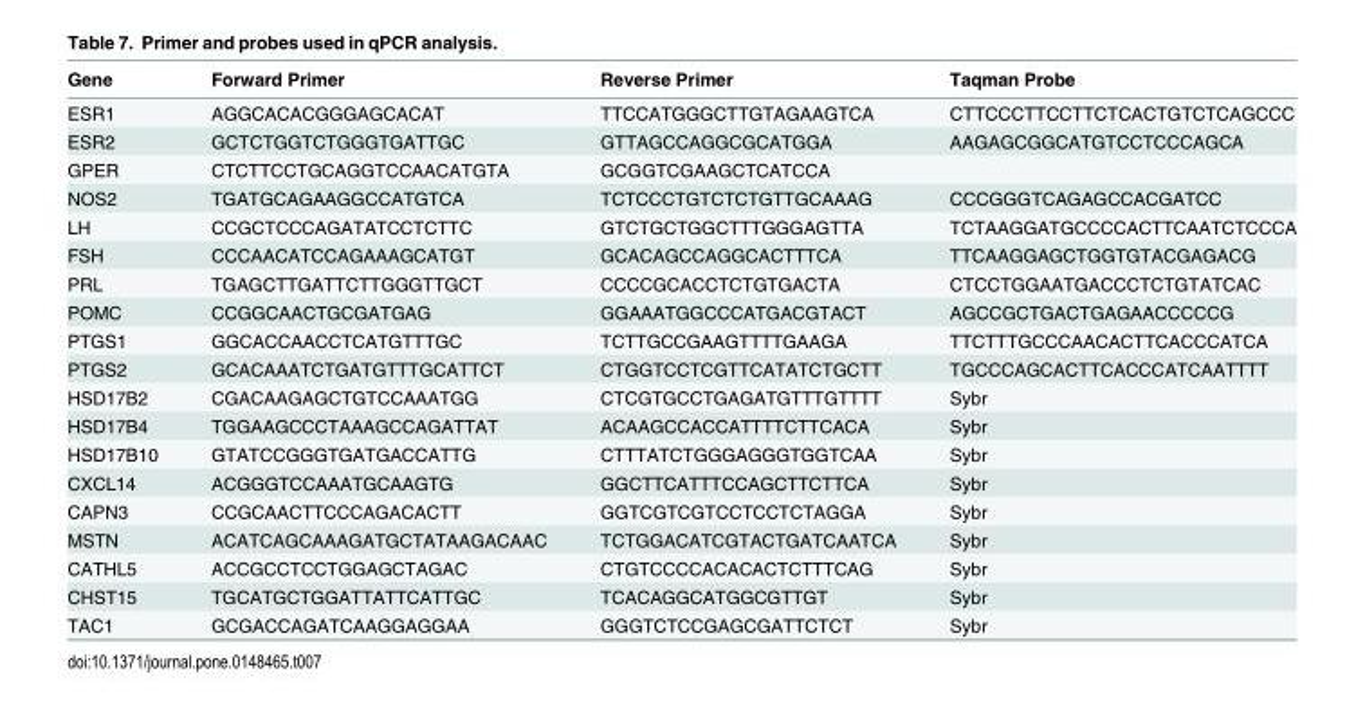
<table><thead><tr><td>Gene</td><td>Forward Primer</td><td>Reverse Primer</td><td>Taqman Probe</td></tr></thead><tbody><tr><td>ESR1</td><td>AGGCACACGGGAGCACAT</td><td>TTCCATGGGCTTGTAGAAGTCA</td><td>CTTCCCTTCCTTCTCACTGTCTCAGCCC</td></tr><tr><td>ESR2</td><td>GCTCTGGTCTGGGTGATTGC</td><td>GTTAGCCAGGCGCATGGA</td><td>AAGAGCGGCATGTCCTCCCAGCA</td></tr><tr><td>GPER</td><td>CTCTTCCTGCAGGTCCAACATGTA</td><td>GCGGTCGAAGCTCATCCA</td><td></td></tr><tr><td>NOS2</td><td>TGATGCAGAAGGCCATGTCA</td><td>TCTCCCTGTCTCTGTTGCAAAG</td><td>CCCGGGTCAGAGCCACGATCC</td></tr><tr><td>LH</td><td>CCGCTCCCAGATATCCTCTTC</td><td>GTCTGCTGGCTTTGGGAGTTA</td><td>TCTAAGGATGCCCCACTTCAATCTCCCA</td></tr><tr><td>FSH</td><td>CCCAACATCCAGAAAGCATGT</td><td>GCACAGCCAGGCACTTTCA</td><td>TTCAAGGAGCTGGTGTACGAGACG</td></tr><tr><td>PRL</td><td>TGAGCTTGATTCTTGGGTTGCT</td><td>CCCCGCACCTCTGTGACTA</td><td>CTCCTGGAATGACCCTCTGTATCAC</td></tr><tr><td>POMC</td><td>CCGGCAACTGCGATGAG</td><td>GGAAATGGCCCATGACGTACT</td><td>AGCCGCTGACTGAGAACCCCCG</td></tr><tr><td>PTGS1</td><td>GGCACCAACCTCATGTTTGC</td><td>TCTTGCCGAAGTTTTGAAGA</td><td>TTCTTTGCCCAACACTTCACCCATCA</td></tr><tr><td>PTGS2</td><td>GCACAAATCTGATGTTTGCATTCT</td><td>CTGGTCCTCGTTCATATCTGCTT</td><td>TGCCCAGCACTTCACCCATCAATTTT</td></tr><tr><td>HSD17B2</td><td>CGACAAGAGCTGTCCAAATGG</td><td>CTCGTGCCTGAGATGTTTGTTTT</td><td>Sybr</td></tr><tr><td>HSD17B4</td><td>TGGAAGCCCTAAAGCCAGATTAT</td><td>ACAAGCCACCATTTTCTTCACA</td><td>Sybr</td></tr><tr><td>HSD17B10</td><td>GTATCCGGGTGATGACCATTG</td><td>CTTTATCTGGGAGGGTGGTCAA</td><td>Sybr</td></tr><tr><td>CXCL14</td><td>ACGGGTCCAAATGCAAGTG</td><td>GGCTTCATTTCCAGCTTCTTCA</td><td>Sybr</td></tr><tr><td>CAPN3</td><td>CCGCAACTTCCCAGACACTT</td><td>GGTCGTCGTCCTCCTCTAGGA</td><td>Sybr</td></tr><tr><td>MSTN</td><td>ACATCAGCAAAGATGCTATAAGACAAC</td><td>TCTGGACATCGTACTGATCAATCA</td><td>Sybr</td></tr><tr><td>CATHL5</td><td>ACCGCCTCCTGGAGCTAGAC</td><td>CTGTCCCCACACACTCTTTCAG</td><td>Sybr</td></tr><tr><td>CHST15</td><td>TGCATGCTGGATTATTCATTGC</td><td>TCACAGGCATGGCGTTGT</td><td>Sybr</td></tr><tr><td>TAC1</td><td>GCGACCAGATCAAGGAGGAA</td><td>GGGTCTCCGAGCGATTCTCT</td><td>Sybr</td></tr></tbody></table>